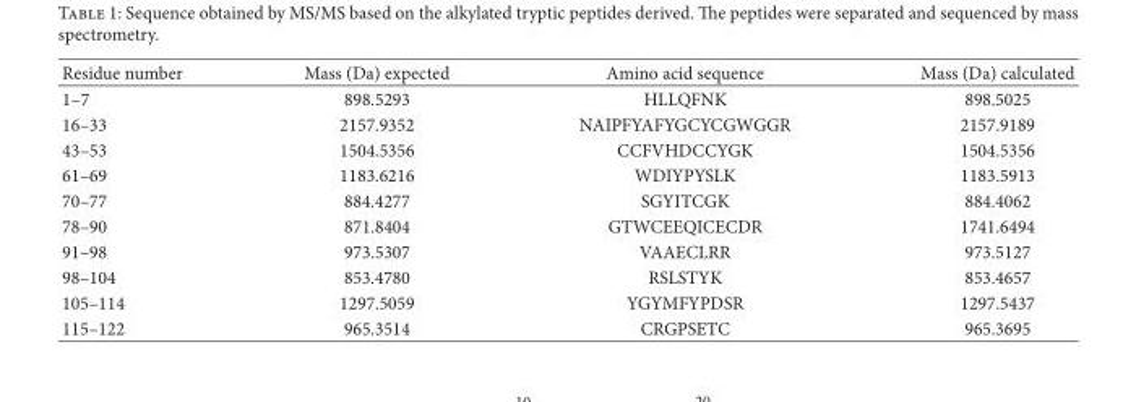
<table><thead><tr><td>Residue number</td><td>Mass (Da) expected</td><td>Amino acid sequence</td><td>Mass (Da) calculated</td></tr></thead><tbody><tr><td>1–7</td><td>898.5293</td><td>HLLQFNK</td><td>898.5025</td></tr><tr><td>16–33</td><td>2157.9352</td><td>NAIPFYAFYGCYCGWGGR</td><td>2157.9189</td></tr><tr><td>43–53</td><td>1504.5356</td><td>CCFVHDCCYGK</td><td>1504.5356</td></tr><tr><td>61–69</td><td>1183.6216</td><td>WDIYPYSLK</td><td>1183.5913</td></tr><tr><td>70–77</td><td>884.4277</td><td>SGYITCGK</td><td>884.4062</td></tr><tr><td>78–90</td><td>871.8404</td><td>GTWCEEQICECDR</td><td>1741.6494</td></tr><tr><td>91–98</td><td>973.5307</td><td>VAAECLRR</td><td>973.5127</td></tr><tr><td>98–104</td><td>853.4780</td><td>RSLSTYK</td><td>853.4657</td></tr><tr><td>105–114</td><td>1297.5059</td><td>YGYMFYPDSR</td><td>1297.5437</td></tr><tr><td>115–122</td><td>965.3514</td><td>CRGPSETC</td><td>965.3695</td></tr></tbody></table>